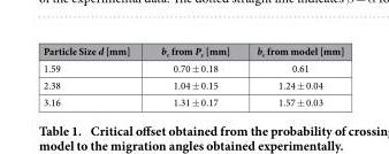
<table><thead><tr><td>Particle Size d [mm]</td><td>b<sub>c</sub> from P<sub>c</sub> [mm]</td><td>b<sub>c</sub> from model [mm]</td></tr></thead><tbody><tr><td>1.59</td><td>0.70 ± 0.18</td><td>0.61</td></tr><tr><td>2.38</td><td>1.04 ± 0.15</td><td>1.24 ± 0.04</td></tr><tr><td>3.16</td><td>1.31 ± 0.17</td><td>1.57 ± 0.03</td></tr></tbody></table>